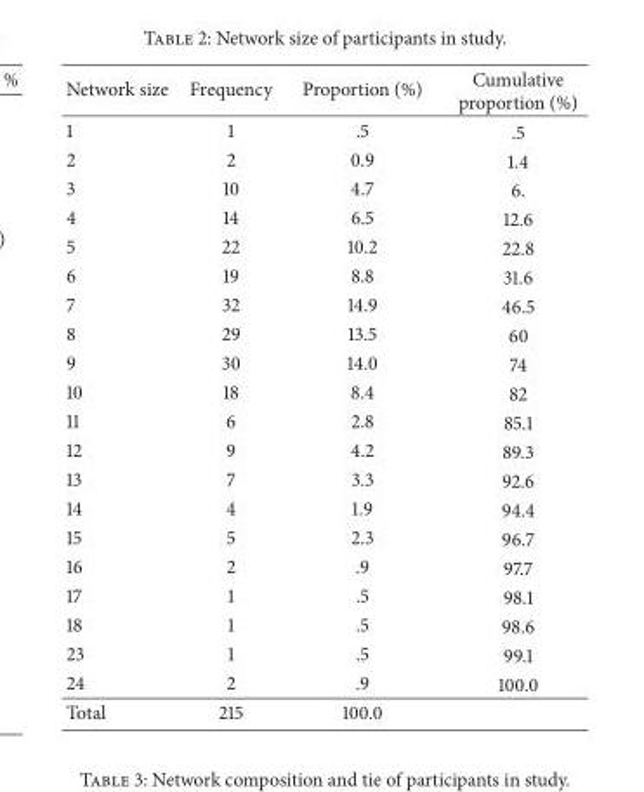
<table><thead><tr><td>Network size</td><td>Frequency</td><td>Proportion (%)</td><td>Cumulative proportion (%)</td></tr></thead><tbody><tr><td>1</td><td>1</td><td>.5</td><td>.5</td></tr><tr><td>2</td><td>2</td><td>0.9</td><td>1.4</td></tr><tr><td>3</td><td>10</td><td>4.7</td><td>6.</td></tr><tr><td>4</td><td>14</td><td>6.5</td><td>12.6</td></tr><tr><td>5</td><td>22</td><td>10.2</td><td>22.8</td></tr><tr><td>6</td><td>19</td><td>8.8</td><td>31.6</td></tr><tr><td>7</td><td>32</td><td>14.9</td><td>46.5</td></tr><tr><td>8</td><td>29</td><td>13.5</td><td>60</td></tr><tr><td>9</td><td>30</td><td>14.0</td><td>74</td></tr><tr><td>10</td><td>18</td><td>8.4</td><td>82</td></tr><tr><td>11</td><td>6</td><td>2.8</td><td>85.1</td></tr><tr><td>12</td><td>9</td><td>4.2</td><td>89.3</td></tr><tr><td>13</td><td>7</td><td>3.3</td><td>92.6</td></tr><tr><td>14</td><td>4</td><td>1.9</td><td>94.4</td></tr><tr><td>15</td><td>5</td><td>2.3</td><td>96.7</td></tr><tr><td>16</td><td>2</td><td>.9</td><td>97.7</td></tr><tr><td>17</td><td>1</td><td>.5</td><td>98.1</td></tr><tr><td>18</td><td>1</td><td>.5</td><td>98.6</td></tr><tr><td>23</td><td>1</td><td>.5</td><td>99.1</td></tr><tr><td>24</td><td>2</td><td>.9</td><td>100.0</td></tr><tr><td>Total</td><td>215</td><td>100.0</td><td></td></tr></tbody></table>